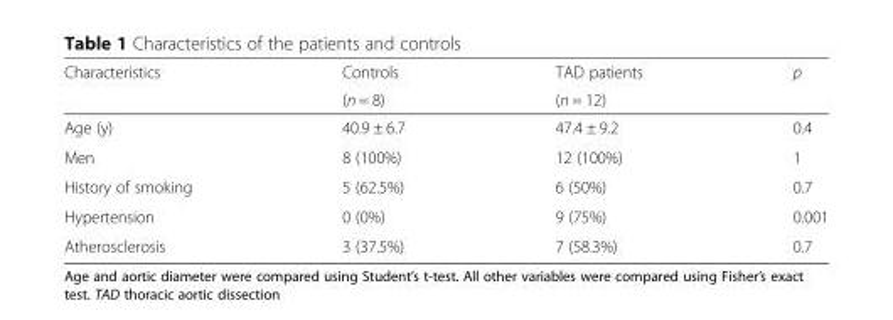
<table><thead><tr><td rowspan="2">Characteristics</td><td rowspan="2">Controls (n = 8)</td><td rowspan="2">TAD patients (n = 12)</td><td rowspan="2">p</td></tr><tr></tr></thead><tbody><tr><td>Age (y)</td><td>40.9 ± 6.7</td><td>47.4 ± 9.2</td><td>0.4</td></tr><tr><td>Men</td><td>8 (100%)</td><td>12 (100%)</td><td>1</td></tr><tr><td>History of smoking</td><td>5 (62.5%)</td><td>6 (50%)</td><td>0.7</td></tr><tr><td>Hypertension</td><td>0 (0%)</td><td>9 (75%)</td><td>0.001</td></tr><tr><td>Atherosclerosis</td><td>3 (37.5%)</td><td>7 (58.3%)</td><td>0.7</td></tr></tbody></table>